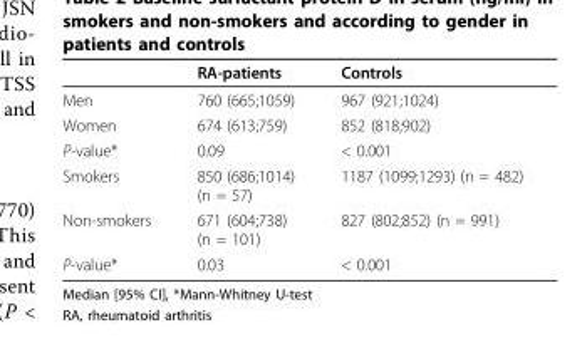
<table><thead><tr><td></td><td>RA-patients</td><td>Controls</td></tr></thead><tbody><tr><td>Men</td><td>760 (665;1059)</td><td>967 (921;1024)</td></tr><tr><td>Women</td><td>674 (613;759)</td><td>852 (818;902)</td></tr><tr><td>P-value*</td><td>0.09</td><td>&lt; 0.001</td></tr><tr><td>Smokers</td><td>850 (686;1014) (n = 57)</td><td>1187 (1099;1293) (n = 482)</td></tr><tr><td>Non-smokers</td><td>671 (604;738) (n = 101)</td><td>827 (802;852) (n = 991)</td></tr><tr><td>P-value*</td><td>0.03</td><td>&lt; 0.001</td></tr></tbody></table>